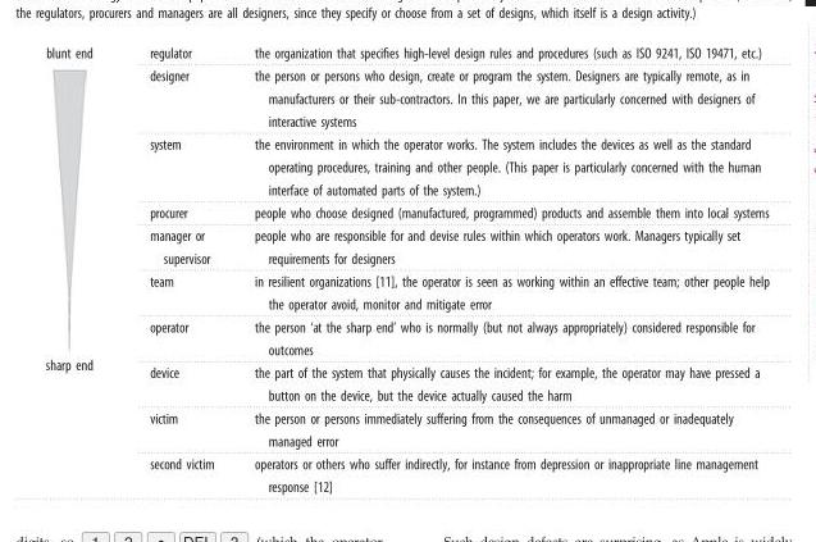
<table><tbody><tr><td rowspan="10">blunt end sharp end</td><td>regulator</td><td>the organization that specifies high-level design rules and procedures (such as ISO 9241, ISO 19471, etc.)</td></tr><tr><td>designer</td><td>the person or persons who design, create or program the system. Designers are typically remote, as in manufacturers or their sub-contractors. In this paper, we are particularly concerned with designers of interactive systems</td></tr><tr><td>system</td><td>the environment in which the operator works. The system includes the devices as well as the standard operating procedures, training and other people. (This paper is particularly concerned with the human interface of automated parts of the system.)</td></tr><tr><td>procurer</td><td>people who choose designed (manufactured, programmed) products and assemble them into local systems</td></tr><tr><td>manager or supervisor</td><td>people who are responsible for and devise rules within which operators work. Managers typically set requirements for designers</td></tr><tr><td>team</td><td>in resilient organizations [11], the operator is seen as working within an effective team; other people help the operator avoid, monitor and mitigate error</td></tr><tr><td>operator</td><td>the person ‘at the sharp end’ who is normally (but not always appropriately) considered responsible for outcomes</td></tr><tr><td>device</td><td>the part of the system that physically causes the incident; for example, the operator may have pressed a button on the device, but the device actually caused the harm</td></tr><tr><td>victim</td><td>the person or persons immediately suffering from the consequences of unmanaged or inadequately managed error</td></tr><tr><td>second victim</td><td>operators or others who suffer indirectly, for instance from depression or inappropriate line management response [12]</td></tr></tbody></table>